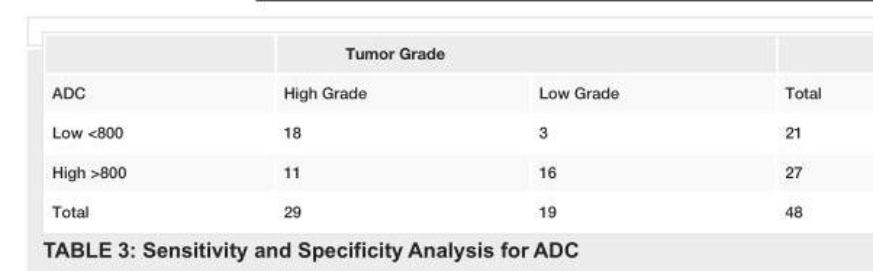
<table><thead><tr><td rowspan="2">ADC</td><td colspan="2">Tumor Grade</td><td rowspan="2">Total</td></tr><tr><td>High Grade</td><td>Low Grade</td></tr></thead><tbody><tr><td>Low &lt;800</td><td>18</td><td>3</td><td>21</td></tr><tr><td>High &gt;800</td><td>11</td><td>16</td><td>27</td></tr><tr><td>Total</td><td>29</td><td>19</td><td>48</td></tr></tbody></table>